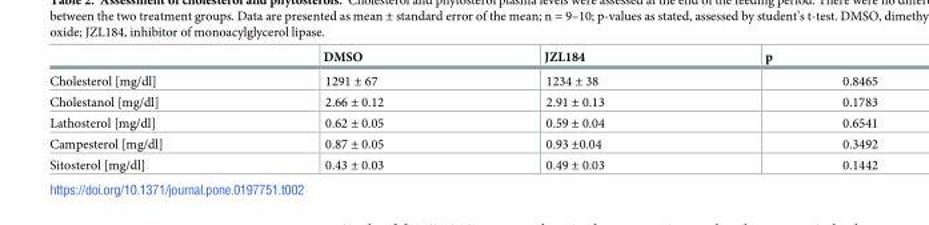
<table><thead><tr><td></td><td>DMSO</td><td>JZL184</td><td>p</td></tr></thead><tbody><tr><td>Cholesterol [mg/dl]</td><td>1291 ± 67</td><td>1234 ± 38</td><td>0.8465</td></tr><tr><td>Cholestanol [mg/dl]</td><td>2.66 ± 0.12</td><td>2.91 ± 0.13</td><td>0.1783</td></tr><tr><td>Lathosterol [mg/dl]</td><td>0.62 ± 0.05</td><td>0.59 ± 0.04</td><td>0.6541</td></tr><tr><td>Campesterol [mg/dl]</td><td>0.87 ± 0.05</td><td>0.93 ±0.04</td><td>0.3492</td></tr><tr><td>Sitosterol [mg/dl]</td><td>0.43 ± 0.03</td><td>0.49 ± 0.03</td><td>0.1442</td></tr></tbody></table>